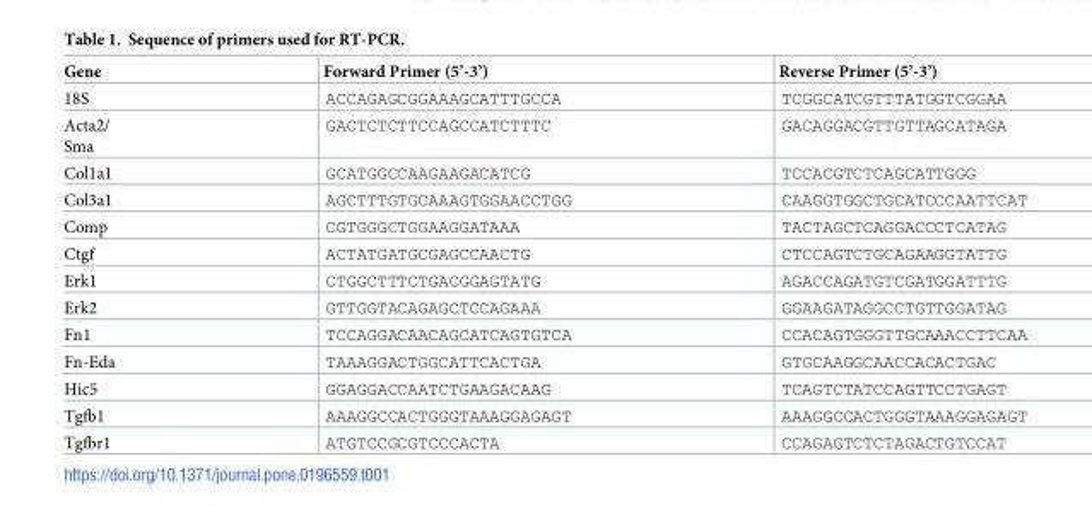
<table><thead><tr><td>Gene</td><td>Forward Primer (5’-3’)</td><td>Reverse Primer (5’-3’)</td></tr></thead><tbody><tr><td>18S</td><td>ACCAGAGCGGAAAGCATTTGCCA</td><td>TCGGCATCGTTTATGGTCGGAA</td></tr><tr><td>Acta2/ Sma</td><td>GACTCTCTTCCAGCCATCTTTC</td><td>GACAGGACGTTGTTAGCATAGA</td></tr><tr><td>Col1a1</td><td>GCATGGCCAAGAAGACATCG</td><td>TCCACGTCTCAGCATTGGG</td></tr><tr><td>Col3a1</td><td>AGCTTTGTGCAAAGTGGAACCTGG</td><td>CAAGGTGGCTGCATCCCAATTCAT</td></tr><tr><td>Comp</td><td>CGTGGGCTGGAAGGATAAA</td><td>TACTAGCTCAGGACCCTCATAG</td></tr><tr><td>Ctgf</td><td>ACTATGATGCGAGCCAACTG</td><td>CTCCAGTCTGCAGAAGGTATTG</td></tr><tr><td>Erk1</td><td>CTGGCTTTCTGACGGAGTATG</td><td>AGACCAGATGTCGATGGATTTG</td></tr><tr><td>Erk2</td><td>GTTGGTACAGAGCTCCAGAAA</td><td>GGAAGATAGGCCTGTTGGATAG</td></tr><tr><td>Fn1</td><td>TCCAGGACAACAGCATCAGTGTCA</td><td>CCACAGTGGGTTGCAAACCTTCAA</td></tr><tr><td>Fn-Eda</td><td>TAAAGGACTGGCATTCACTGA</td><td>GTGCAAGGCAACCACACTGAC</td></tr><tr><td>Hic5</td><td>GGAGGACCAATCTGAAGACAAG</td><td>TCAGTCTATCCAGTTCCTGAGT</td></tr><tr><td>Tgfb1</td><td>AAAGGCCACTGGGTAAAGGAGAGT</td><td>AAAGGCCACTGGGTAAAGGAGAGT</td></tr><tr><td>Tgfbr1</td><td>ATGTCCGCGTCCCACTA</td><td>CCAGAGTCTCTAGACTGTCCAT</td></tr></tbody></table>